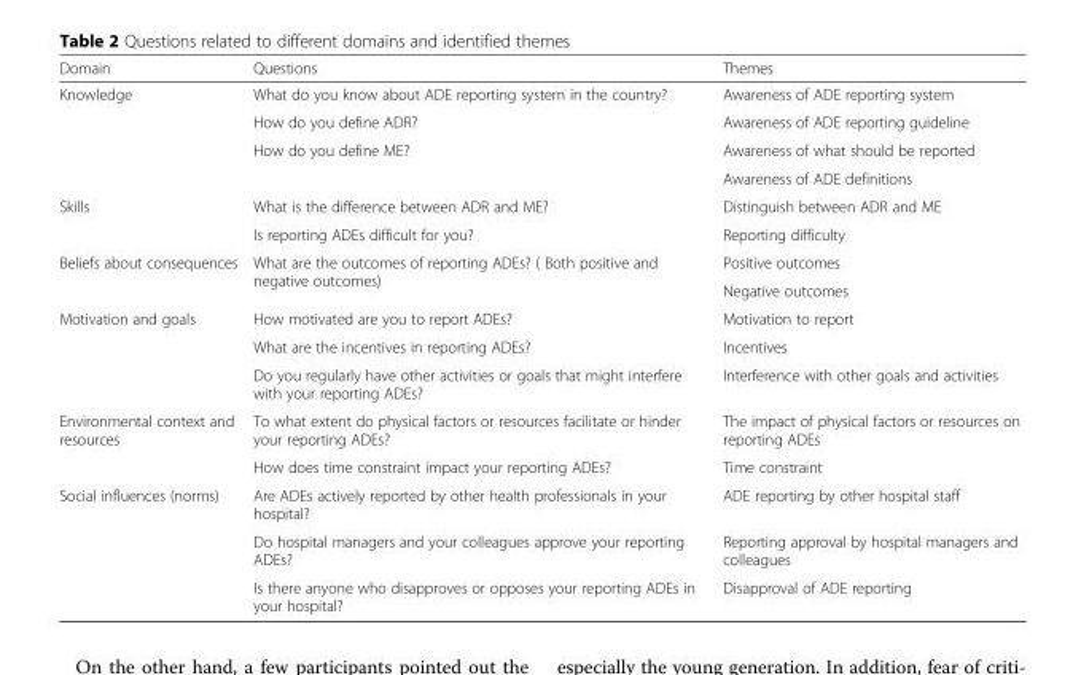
<table><thead><tr><td>Domain</td><td>Questions</td><td>Themes</td></tr></thead><tbody><tr><td rowspan="4">Knowledge</td><td>What do you know about ADE reporting system in the country?</td><td>Awareness of ADE reporting system</td></tr><tr><td>How do you define ADR?</td><td>Awareness of ADE reporting guideline</td></tr><tr><td rowspan="2">How do you define ME?</td><td>Awareness of what should be reported</td></tr><tr><td>Awareness of ADE definitions</td></tr><tr><td rowspan="2">Skills</td><td>What is the difference between ADR and ME?</td><td>Distinguish between ADR and ME</td></tr><tr><td>Is reporting ADEs difficult for you?</td><td>Reporting difficulty</td></tr><tr><td rowspan="2">Beliefs about consequences</td><td rowspan="2">What are the outcomes of reporting ADEs? ( Both positive and negative outcomes)</td><td>Positive outcomes</td></tr><tr><td>Negative outcomes</td></tr><tr><td rowspan="3">Motivation and goals</td><td>How motivated are you to report ADEs?</td><td>Motivation to report</td></tr><tr><td>What are the incentives in reporting ADEs?</td><td>Incentives</td></tr><tr><td>Do you regularly have other activities or goals that might interfere with your reporting ADEs?</td><td>Interference with other goals and activities</td></tr><tr><td rowspan="2">Environmental context and resources</td><td>To what extent do physical factors or resources facilitate or hinder your reporting ADEs?</td><td>The impact of physical factors or resources on reporting ADEs</td></tr><tr><td>How does time constraint impact your reporting ADEs?</td><td>Time constraint</td></tr><tr><td rowspan="3">Social influences (norms)</td><td>Are ADEs actively reported by other health professionals in your hospital?</td><td>ADE reporting by other hospital staff</td></tr><tr><td>Do hospital managers and your colleagues approve your reporting ADEs?</td><td>Reporting approval by hospital managers and colleagues</td></tr><tr><td>Is there anyone who disapproves or opposes your reporting ADEs in your hospital?</td><td>Disapproval of ADE reporting</td></tr></tbody></table>